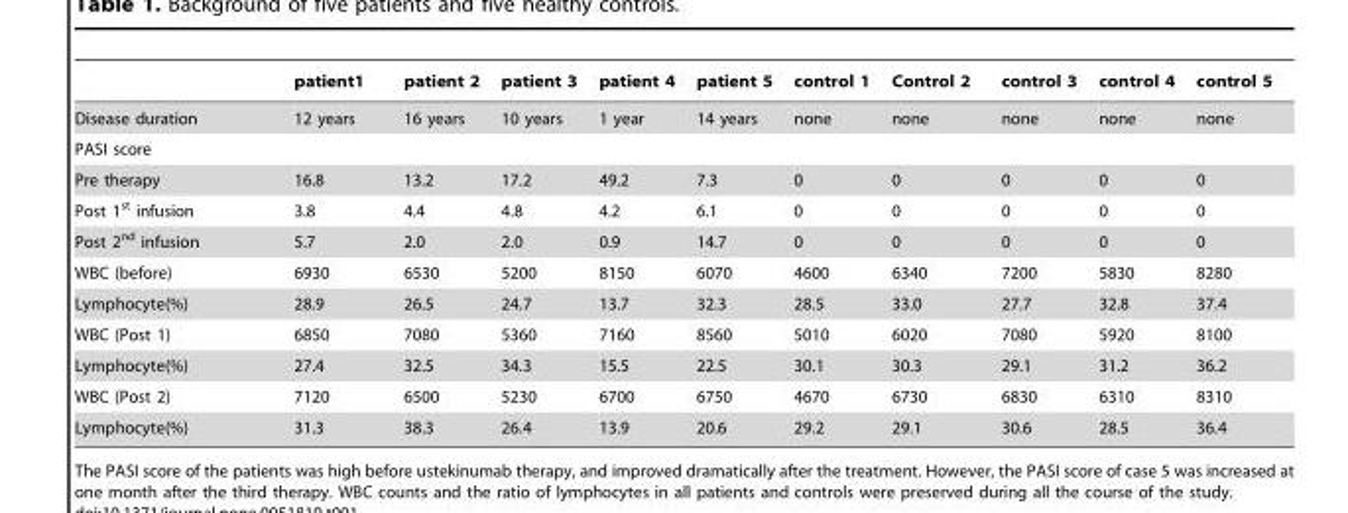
<table><thead><tr><td></td><td>patient1</td><td>patient 2</td><td>patient 3</td><td>patient 4</td><td>patient 5</td><td>control 1</td><td>Control 2</td><td>control 3</td><td>control 4</td><td>control 5</td></tr></thead><tbody><tr><td>Disease duration</td><td>12 years</td><td>16 years</td><td>10 years</td><td>1 year</td><td>14 years</td><td>none</td><td>none</td><td>none</td><td>none</td><td>none</td></tr><tr><td colspan="11">PASI score</td></tr><tr><td>Pre therapy</td><td>16.8</td><td>13.2</td><td>17.2</td><td>49.2</td><td>7.3</td><td>0</td><td>0</td><td>0</td><td>0</td><td>0</td></tr><tr><td>Post 1<sup>st</sup> infusion</td><td>3.8</td><td>4.4</td><td>4.8</td><td>4.2</td><td>6.1</td><td>0</td><td>0</td><td>0</td><td>0</td><td>0</td></tr><tr><td>Post 2<sup>nd</sup> infusion</td><td>5.7</td><td>2.0</td><td>2.0</td><td>0.9</td><td>14.7</td><td>0</td><td>0</td><td>0</td><td>0</td><td>0</td></tr><tr><td>WBC (before)</td><td>6930</td><td>6530</td><td>5200</td><td>8150</td><td>6070</td><td>4600</td><td>6340</td><td>7200</td><td>5830</td><td>8280</td></tr><tr><td>Lymphocyte(%)</td><td>28.9</td><td>26.5</td><td>24.7</td><td>13.7</td><td>32.3</td><td>28.5</td><td>33.0</td><td>27.7</td><td>32.8</td><td>37.4</td></tr><tr><td>WBC (Post 1)</td><td>6850</td><td>7080</td><td>5360</td><td>7160</td><td>8560</td><td>5010</td><td>6020</td><td>7080</td><td>5920</td><td>8100</td></tr><tr><td>Lymphocyte(%)</td><td>27.4</td><td>32.5</td><td>34.3</td><td>15.5</td><td>22.5</td><td>30.1</td><td>30.3</td><td>29.1</td><td>31.2</td><td>36.2</td></tr><tr><td>WBC (Post 2)</td><td>7120</td><td>6500</td><td>5230</td><td>6700</td><td>6750</td><td>4670</td><td>6730</td><td>6830</td><td>6310</td><td>8310</td></tr><tr><td>Lymphocyte(%)</td><td>31.3</td><td>38.3</td><td>26.4</td><td>13.9</td><td>20.6</td><td>29.2</td><td>29.1</td><td>30.6</td><td>28.5</td><td>36.4</td></tr></tbody></table>